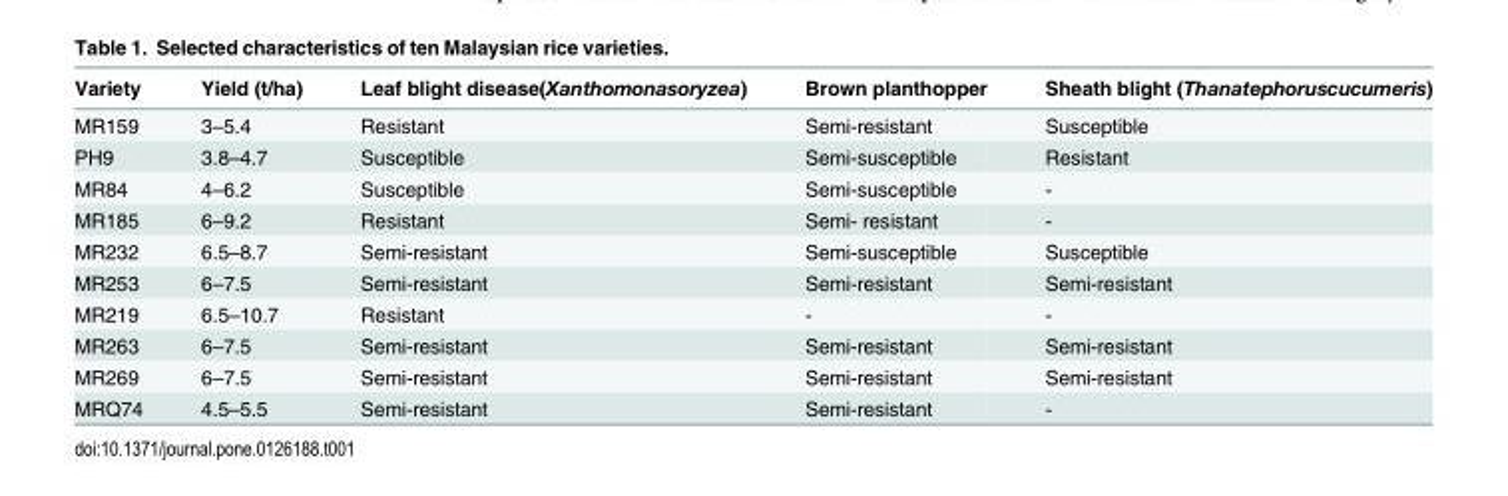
<table><thead><tr><td>Variety</td><td>Yield (t/ha)</td><td>Leaf blight disease(Xanthomonasoryzea)</td><td>Brown planthopper</td><td>Sheath blight (Thanatephoruscucumeris)</td></tr></thead><tbody><tr><td>MR159</td><td>3–5.4</td><td>Resistant</td><td>Semi-resistant</td><td>Susceptible</td></tr><tr><td>PH9</td><td>3.8–4.7</td><td>Susceptible</td><td>Semi-susceptible</td><td>Resistant</td></tr><tr><td>MR84</td><td>4–6.2</td><td>Susceptible</td><td>Semi-susceptible</td><td>-</td></tr><tr><td>MR185</td><td>6–9.2</td><td>Resistant</td><td>Semi- resistant</td><td>-</td></tr><tr><td>MR232</td><td>6.5–8.7</td><td>Semi-resistant</td><td>Semi-susceptible</td><td>Susceptible</td></tr><tr><td>MR253</td><td>6–7.5</td><td>Semi-resistant</td><td>Semi-resistant</td><td>Semi-resistant</td></tr><tr><td>MR219</td><td>6.5–10.7</td><td>Resistant</td><td>-</td><td>-</td></tr><tr><td>MR263</td><td>6–7.5</td><td>Semi-resistant</td><td>Semi-resistant</td><td>Semi-resistant</td></tr><tr><td>MR269</td><td>6–7.5</td><td>Semi-resistant</td><td>Semi-resistant</td><td>Semi-resistant</td></tr><tr><td>MRQ74</td><td>4.5–5.5</td><td>Semi-resistant</td><td>Semi-resistant</td><td>-</td></tr></tbody></table>